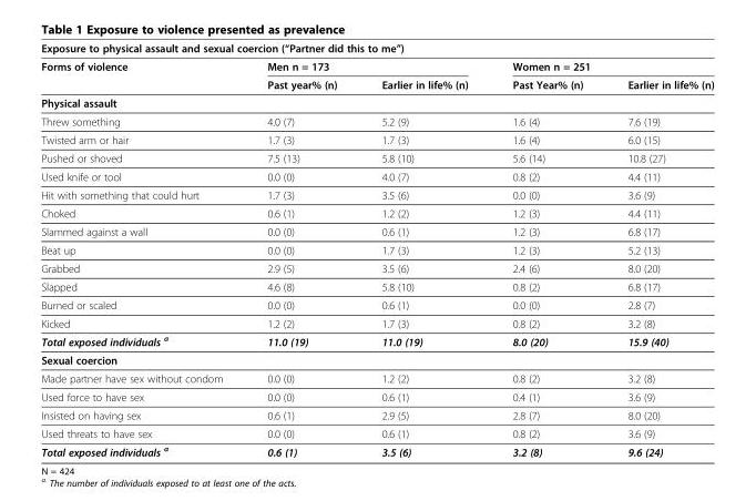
<table><thead><tr><td colspan="5">Exposure to physical assault and sexual coercion (“Partner did this to me”)</td></tr><tr><td rowspan="2">Forms of violence</td><td colspan="2">Men n = 173</td><td colspan="2">Women n = 251</td></tr><tr><td>Past year% (n)</td><td>Earlier in life% (n)</td><td>Past Year% (n)</td><td>Earlier in life% (n)</td></tr></thead><tbody><tr><td colspan="5">Physical assault</td></tr><tr><td>Threw something</td><td>4.0 (7)</td><td>5.2 (9)</td><td>1.6 (4)</td><td>7.6 (19)</td></tr><tr><td>Twisted arm or hair</td><td>1.7 (3)</td><td>1.7 (3)</td><td>1.6 (4)</td><td>6.0 (15)</td></tr><tr><td>Pushed or shoved</td><td>7.5 (13)</td><td>5.8 (10)</td><td>5.6 (14)</td><td>10.8 (27)</td></tr><tr><td>Used knife or tool</td><td>0.0 (0)</td><td>4.0 (7)</td><td>0.8 (2)</td><td>4.4 (11)</td></tr><tr><td>Hit with something that could hurt</td><td>1.7 (3)</td><td>3.5 (6)</td><td>0.0 (0)</td><td>3.6 (9)</td></tr><tr><td>Choked</td><td>0.6 (1)</td><td>1.2 (2)</td><td>1.2 (3)</td><td>4.4 (11)</td></tr><tr><td>Slammed against a wall</td><td>0.0 (0)</td><td>0.6 (1)</td><td>1.2 (3)</td><td>6.8 (17)</td></tr><tr><td>Beat up</td><td>0.0 (0)</td><td>1.7 (3)</td><td>1.2 (3)</td><td>5.2 (13)</td></tr><tr><td>Grabbed</td><td>2.9 (5)</td><td>3.5 (6)</td><td>2.4 (6)</td><td>8.0 (20)</td></tr><tr><td>Slapped</td><td>4.6 (8)</td><td>5.8 (10)</td><td>0.8 (2)</td><td>6.8 (17)</td></tr><tr><td>Burned or scaled</td><td>0.0 (0)</td><td>0.6 (1)</td><td>0.0 (0)</td><td>2.8 (7)</td></tr><tr><td>Kicked</td><td>1.2 (2)</td><td>1.7 (3)</td><td>0.8 (2)</td><td>3.2 (8)</td></tr><tr><td>Total exposed individuals <sup>a</sup></td><td>11.0 (19)</td><td>11.0 (19)</td><td>8.0 (20)</td><td>15.9 (40)</td></tr><tr><td colspan="5">Sexual coercion</td></tr><tr><td>Made partner have sex without condom</td><td>0.0 (0)</td><td>1.2 (2)</td><td>0.8 (2)</td><td>3.2 (8)</td></tr><tr><td>Used force to have sex</td><td>0.0 (0)</td><td>0.6 (1)</td><td>0.4 (1)</td><td>3.6 (9)</td></tr><tr><td>Insisted on having sex</td><td>0.6 (1)</td><td>2.9 (5)</td><td>2.8 (7)</td><td>8.0 (20)</td></tr><tr><td>Used threats to have sex</td><td>0.0 (0)</td><td>0.6 (1)</td><td>0.8 (2)</td><td>3.6 (9)</td></tr><tr><td>Total exposed individuals <sup>a</sup></td><td>0.6 (1)</td><td>3.5 (6)</td><td>3.2 (8)</td><td>9.6 (24)</td></tr></tbody></table>